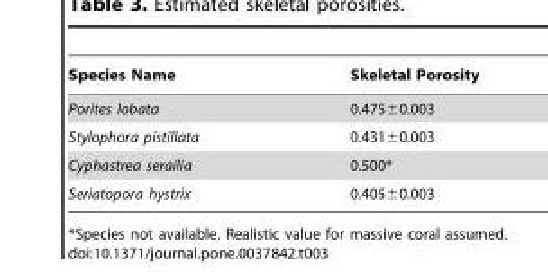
<table><thead><tr><td>Species Name</td><td>Skeletal Porosity</td></tr></thead><tbody><tr><td>Porites lobata</td><td>0.475±0.003</td></tr><tr><td>Stylophora pistillata</td><td>0.431±0.003</td></tr><tr><td>Cyphastrea serailia</td><td>0.500*</td></tr><tr><td>Seriatopora hystrix</td><td>0.405±0.003</td></tr></tbody></table>